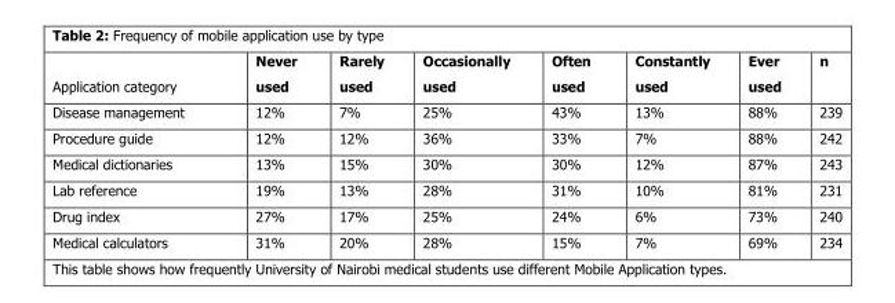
<table><thead><tr><td>Application category</td><td>Never used</td><td>Rarely used</td><td>Occasionally used</td><td>Often used</td><td>Constantly used</td><td>Ever used</td><td>n</td></tr></thead><tbody><tr><td>Disease management</td><td>12%</td><td>7%</td><td>25%</td><td>43%</td><td>13%</td><td>88%</td><td>239</td></tr><tr><td>Procedure guide</td><td>12%</td><td>12%</td><td>36%</td><td>33%</td><td>7%</td><td>88%</td><td>242</td></tr><tr><td>Medical dictionaries</td><td>13%</td><td>15%</td><td>30%</td><td>30%</td><td>12%</td><td>87%</td><td>243</td></tr><tr><td>Lab reference</td><td>19%</td><td>13%</td><td>28%</td><td>31%</td><td>10%</td><td>81%</td><td>231</td></tr><tr><td>Drug index</td><td>27%</td><td>17%</td><td>25%</td><td>24%</td><td>6%</td><td>73%</td><td>240</td></tr><tr><td>Medical calculators</td><td>31%</td><td>20%</td><td>28%</td><td>15%</td><td>7%</td><td>69%</td><td>234</td></tr></tbody></table>